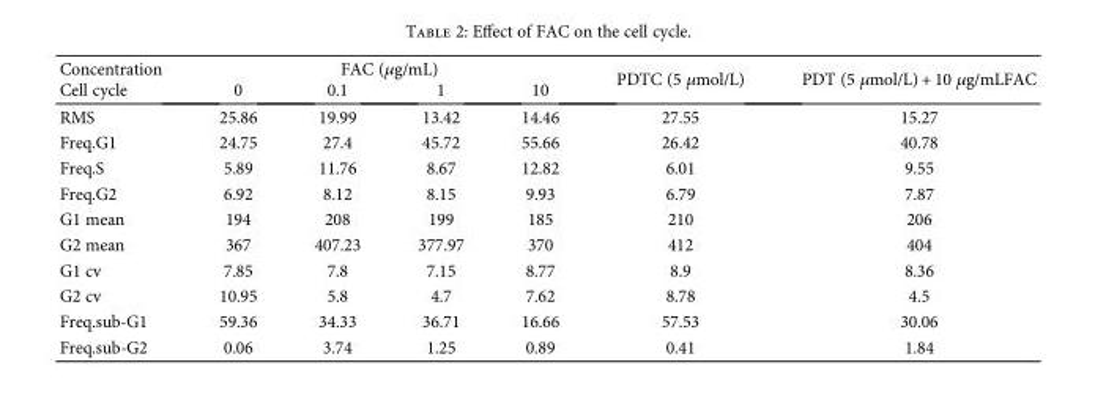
<table><thead><tr><td rowspan="2">Concentration Cell cycle</td><td colspan="4">FAC (μg/mL)</td><td rowspan="2">PDTC (5 μmol/L)</td><td rowspan="2">PDT (5 μmol/L) + 10 μg/mLFAC</td></tr><tr><td>0</td><td>0.1</td><td>1</td><td>10</td></tr></thead><tbody><tr><td>RMS</td><td>25.86</td><td>19.99</td><td>13.42</td><td>14.46</td><td>27.55</td><td>15.27</td></tr><tr><td>Freq.G1</td><td>24.75</td><td>27.4</td><td>45.72</td><td>55.66</td><td>26.42</td><td>40.78</td></tr><tr><td>Freq.S</td><td>5.89</td><td>11.76</td><td>8.67</td><td>12.82</td><td>6.01</td><td>9.55</td></tr><tr><td>Freq.G2</td><td>6.92</td><td>8.12</td><td>8.15</td><td>9.93</td><td>6.79</td><td>7.87</td></tr><tr><td>G1 mean</td><td>194</td><td>208</td><td>199</td><td>185</td><td>210</td><td>206</td></tr><tr><td>G2 mean</td><td>367</td><td>407.23</td><td>377.97</td><td>370</td><td>412</td><td>404</td></tr><tr><td>G1 cv</td><td>7.85</td><td>7.8</td><td>7.15</td><td>8.77</td><td>8.9</td><td>8.36</td></tr><tr><td>G2 cv</td><td>10.95</td><td>5.8</td><td>4.7</td><td>7.62</td><td>8.78</td><td>4.5</td></tr><tr><td>Freq.sub-G1</td><td>59.36</td><td>34.33</td><td>36.71</td><td>16.66</td><td>57.53</td><td>30.06</td></tr><tr><td>Freq.sub-G2</td><td>0.06</td><td>3.74</td><td>1.25</td><td>0.89</td><td>0.41</td><td>1.84</td></tr></tbody></table>